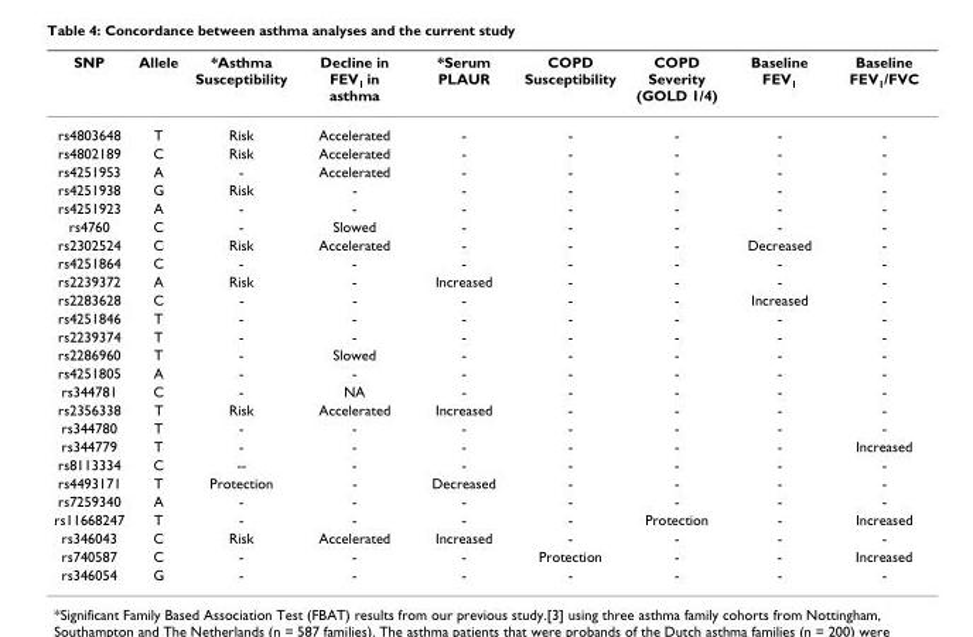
<table><thead><tr><td>SNP</td><td>Allele</td><td>*Asthma Susceptibility</td><td>Decline in FEV<sub>1</sub> in asthma</td><td>*Serum PLAUR</td><td>COPD Susceptibility</td><td>COPD Severity (GOLD 1/4)</td><td>Baseline FEV<sub>1</sub></td><td>Baseline FEV<sub>1</sub>/FVC</td></tr></thead><tbody><tr><td>rs4803648</td><td>T</td><td>Risk</td><td>Accelerated</td><td>-</td><td>-</td><td>-</td><td>-</td><td>-</td></tr><tr><td>rs4802189</td><td>C</td><td>Risk</td><td>Accelerated</td><td>-</td><td>-</td><td>-</td><td>-</td><td>-</td></tr><tr><td>rs4251953</td><td>A</td><td>-</td><td>Accelerated</td><td>-</td><td>-</td><td>-</td><td>-</td><td>-</td></tr><tr><td>rs4251938</td><td>G</td><td>Risk</td><td>-</td><td>-</td><td>-</td><td>-</td><td>-</td><td>-</td></tr><tr><td>rs4251923</td><td>A</td><td>-</td><td>-</td><td>-</td><td>-</td><td>-</td><td>-</td><td>-</td></tr><tr><td>rs4760</td><td>C</td><td>-</td><td>Slowed</td><td>-</td><td>-</td><td>-</td><td>-</td><td>-</td></tr><tr><td>rs2302524</td><td>C</td><td>Risk</td><td>Accelerated</td><td>-</td><td>-</td><td>-</td><td>Decreased</td><td>-</td></tr><tr><td>rs4251864</td><td>C</td><td>-</td><td>-</td><td>-</td><td>-</td><td>-</td><td>-</td><td>-</td></tr><tr><td>rs2239372</td><td>A</td><td>Risk</td><td>-</td><td>Increased</td><td>-</td><td>-</td><td>-</td><td>-</td></tr><tr><td>rs2283628</td><td>C</td><td>-</td><td>-</td><td>-</td><td>-</td><td>-</td><td>Increased</td><td>-</td></tr><tr><td>rs4251846</td><td>T</td><td>-</td><td>-</td><td>-</td><td>-</td><td>-</td><td>-</td><td>-</td></tr><tr><td>rs2239374</td><td>T</td><td>-</td><td>-</td><td>-</td><td>-</td><td>-</td><td>-</td><td>-</td></tr><tr><td>rs2286960</td><td>T</td><td>-</td><td>Slowed</td><td>-</td><td>-</td><td>-</td><td>-</td><td>-</td></tr><tr><td>rs4251805</td><td>A</td><td>-</td><td>-</td><td>-</td><td>-</td><td>-</td><td>-</td><td>-</td></tr><tr><td>rs344781</td><td>C</td><td>-</td><td>NA</td><td>-</td><td>-</td><td>-</td><td>-</td><td>-</td></tr><tr><td>rs2356338</td><td>T</td><td>Risk</td><td>Accelerated</td><td>Increased</td><td>-</td><td>-</td><td>-</td><td>-</td></tr><tr><td>rs344780</td><td>T</td><td>-</td><td>-</td><td>-</td><td>-</td><td>-</td><td>-</td><td>-</td></tr><tr><td>rs344779</td><td>T</td><td>-</td><td>-</td><td>-</td><td>-</td><td>-</td><td>-</td><td>Increased</td></tr><tr><td>rs8113334</td><td>C</td><td>--</td><td>-</td><td>-</td><td>-</td><td>-</td><td>-</td><td>-</td></tr><tr><td>rs4493171</td><td>T</td><td>Protection</td><td>-</td><td>Decreased</td><td>-</td><td>-</td><td>-</td><td>-</td></tr><tr><td>rs7259340</td><td>A</td><td>-</td><td>-</td><td>-</td><td>-</td><td>-</td><td>-</td><td>-</td></tr><tr><td>rs11668247</td><td>T</td><td>-</td><td>-</td><td>-</td><td>-</td><td>Protection</td><td>-</td><td>Increased</td></tr><tr><td>rs346043</td><td>C</td><td>Risk</td><td>Accelerated</td><td>Increased</td><td>-</td><td>-</td><td>-</td><td>-</td></tr><tr><td>rs740587</td><td>C</td><td>-</td><td>-</td><td>-</td><td>Protection</td><td>-</td><td>-</td><td>Increased</td></tr><tr><td>rs346054</td><td>G</td><td>-</td><td>-</td><td>-</td><td>-</td><td>-</td><td>-</td><td>-</td></tr></tbody></table>